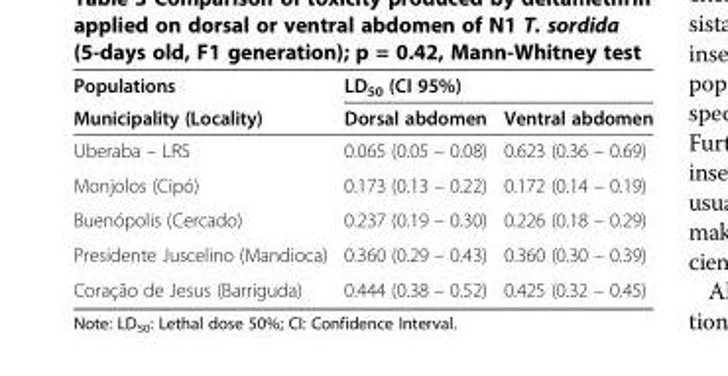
<table><thead><tr><td rowspan="2">Populations Municipality (Locality)</td><td colspan="2">LD<sub>50</sub> (CI 95%)</td></tr><tr><td>Dorsal abdomen</td><td>Ventral abdomen</td></tr></thead><tbody><tr><td>Uberaba – LRS</td><td>0.065 (0.05 – 0.08)</td><td>0.623 (0.36 – 0.69)</td></tr><tr><td>Monjolos (Cipó)</td><td>0.173 (0.13 – 0.22)</td><td>0.172 (0.14 – 0.19)</td></tr><tr><td>Buenópolis (Cercado)</td><td>0.237 (0.19 – 0.30)</td><td>0.226 (0.18 – 0.29)</td></tr><tr><td>Presidente Juscelino (Mandioca)</td><td>0.360 (0.29 – 0.43)</td><td>0.360 (0.30 – 0.39)</td></tr><tr><td>Coração de Jesus (Barriguda)</td><td>0.444 (0.38 – 0.52)</td><td>0.425 (0.32 – 0.45)</td></tr></tbody></table>